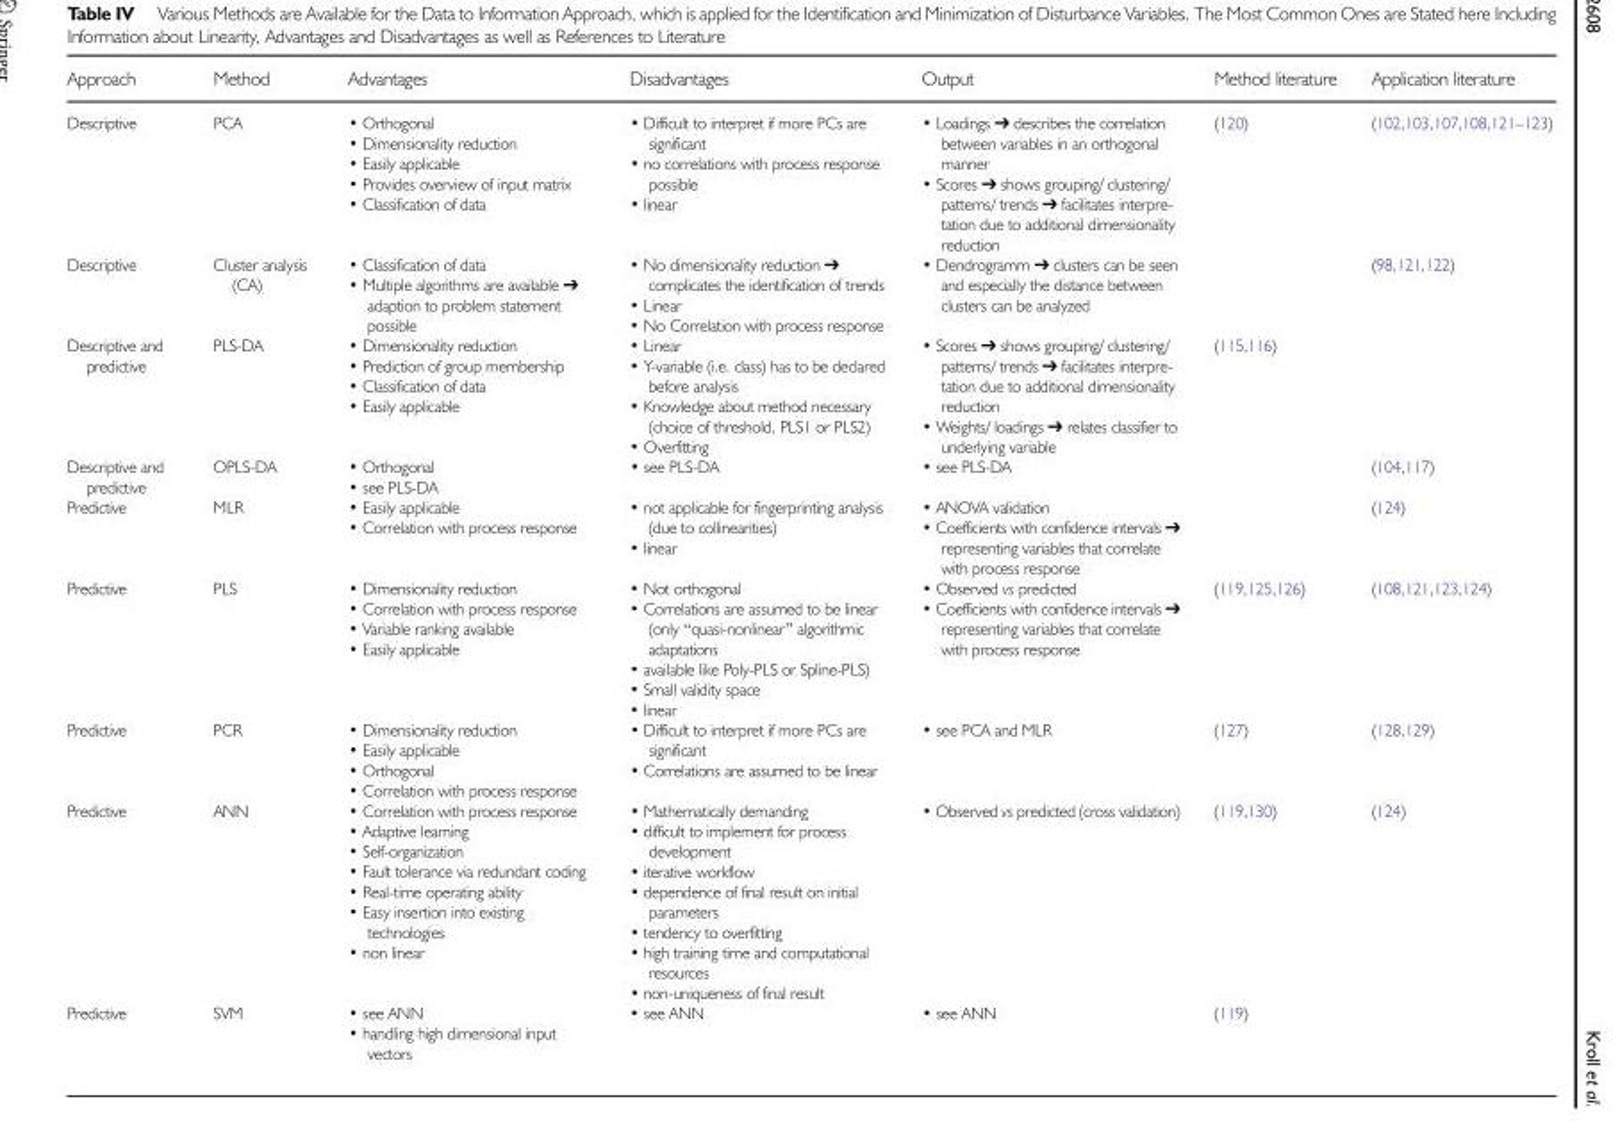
<table><thead><tr><td>Approach</td><td>Method</td><td>Advantages</td><td>Disadvantages</td><td>Output</td><td>Method literature</td><td>Application literature</td></tr></thead><tbody><tr><td>Descriptive</td><td>PCA</td><td>• Orthogonal • Dimensionality reduction • Easily applicable • Provides overview of input matrix • Classification of data</td><td>• Difficult to interpret if more PCs are significant • no correlations with process response possible • linear</td><td>• Loadings ➔ describes the correlation between variables in an orthogonal manner • Scores ➔ shows grouping/ clustering/ patterns/ trends ➔ facilitates interpre- tation due to additional dimensionality reduction</td><td>(120)</td><td>(102,103,107,108,121–123)</td></tr><tr><td>Descriptive</td><td>Cluster analysis (CA)</td><td>• Classification of data • Multiple algorithms are available ➔ adaption to problem statement possible</td><td>• No dimensionality reduction ➔ complicates the identification of trends • Linear • No Correlation with process response</td><td>• Dendrogramm ➔ clusters can be seen and especially the distance between clusters can be analyzed</td><td></td><td>(98,121,122)</td></tr><tr><td>Descriptive and predictive</td><td>PLS-DA</td><td>• Dimensionality reduction • Prediction of group membership • Classification of data • Easily applicable</td><td>• Linear • Y-variable (i.e. class) has to be declared before analysis • Knowledge about method necessary (choice of threshold, PLS1 or PLS2) • Overfitting</td><td>• Scores ➔ shows grouping/ clustering/ patterns/ trends ➔ facilitates interpre- tation due to additional dimensionality reduction • Weights/ loadings ➔ relates classifier to underlying variable</td><td>(115,116)</td><td></td></tr><tr><td>Descriptive and predictive</td><td>OPLS-DA</td><td>• Orthogonal • see PLS-DA</td><td>• see PLS-DA</td><td>• see PLS-DA</td><td></td><td>(104,117)</td></tr><tr><td>Predictive</td><td>MLR</td><td>• Easily applicable • Correlation with process response</td><td>• not applicable for fingerprinting analysis (due to collinearities) • linear</td><td>• ANOVA validation • Coefficients with confidence intervals ➔ representing variables that correlate with process response</td><td></td><td>(124)</td></tr><tr><td>Predictive</td><td>PLS</td><td>• Dimensionality reduction • Correlation with process response • Variable ranking available • Easily applicable</td><td>• Not orthogonal • Correlations are assumed to be linear (only “quasi-nonlinear” algorithmic adaptations • available like Poly-PLS or Spline-PLS) • Small validity space • linear</td><td>• Observed vs predicted • Coefficients with confidence intervals ➔ representing variables that correlate with process response</td><td>(119,125,126)</td><td>(108,121,123,124)</td></tr><tr><td>Predictive</td><td>PCR</td><td>• Dimensionality reduction • Easily applicable • Orthogonal • Correlation with process response</td><td>• Difficult to interpret if more PCs are significant • Correlations are assumed to be linear</td><td>• see PCA and MLR</td><td>(127)</td><td>(128,129)</td></tr><tr><td>Predictive</td><td>ANN</td><td>• Correlation with process response • Adaptive learning • Self-organization • Fault tolerance via redundant coding • Real-time operating ability • Easy insertion into existing technologies • non linear</td><td>• Mathematically demanding • difficult to implement for process development • iterative workflow • dependence of final result on initial parameters • tendency to overfitting • high training time and computational resources • non-uniqueness of final result</td><td>• Observed vs predicted (cross validation)</td><td>(119,130)</td><td>(124)</td></tr><tr><td>Predictive</td><td>SVM</td><td>• see ANN • handling high dimensional input vectors</td><td>• see ANN</td><td>• see ANN</td><td>(119)</td><td></td></tr></tbody></table>